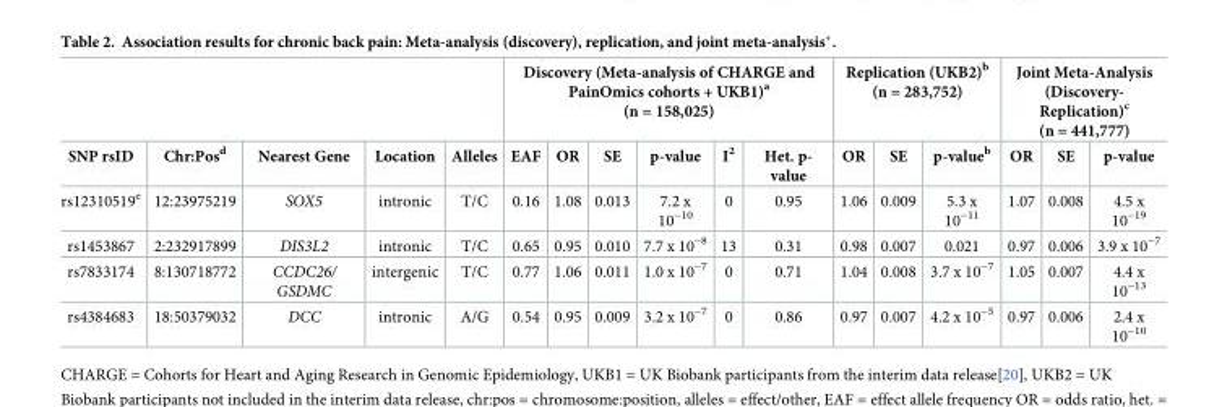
<table><thead><tr><td rowspan="2">SNP rsID</td><td rowspan="2">Chr:Pos<sup>d</sup></td><td rowspan="2">Nearest Gene</td><td rowspan="2">Location</td><td rowspan="2">Alleles</td><td colspan="6">Discovery (Meta-analysis of CHARGE and PainOmics cohorts + UKB1)<sup>a</sup> (n = 158,025)</td><td colspan="3">Replication (UKB2)<sup>b</sup> (n = 283,752)</td><td colspan="3">Joint Meta-Analysis (Discovery- Replication)<sup>c</sup> (n = 441,777)</td></tr><tr><td>EAF</td><td>OR</td><td>SE</td><td>p-value</td><td>I<sup>2</sup></td><td>Het. p- value</td><td>OR</td><td>SE</td><td>p-value<sup>b</sup></td><td>OR</td><td>SE</td><td>p-value</td></tr></thead><tbody><tr><td>rs12310519<sup>e</sup></td><td>12:23975219</td><td>SOX5</td><td>intronic</td><td>T/C</td><td>0.16</td><td>1.08</td><td>0.013</td><td>7.2 x 10<sup>−10</sup></td><td>0</td><td>0.95</td><td>1.06</td><td>0.009</td><td>5.3 x 10<sup>−11</sup></td><td>1.07</td><td>0.008</td><td>4.5 x 10<sup>−19</sup></td></tr><tr><td>rs1453867</td><td>2:232917899</td><td>DIS3L2</td><td>intronic</td><td>T/C</td><td>0.65</td><td>0.95</td><td>0.010</td><td>7.7 x 10<sup>−8</sup></td><td>13</td><td>0.31</td><td>0.98</td><td>0.007</td><td>0.021</td><td>0.97</td><td>0.006</td><td>3.9 x 10<sup>−7</sup></td></tr><tr><td>rs7833174</td><td>8:130718772</td><td>CCDC26/ GSDMC</td><td>intergenic</td><td>T/C</td><td>0.77</td><td>1.06</td><td>0.011</td><td>1.0 x 10<sup>−7</sup></td><td>0</td><td>0.71</td><td>1.04</td><td>0.008</td><td>3.7 x 10<sup>−7</sup></td><td>1.05</td><td>0.007</td><td>4.4 x 10<sup>−13</sup></td></tr><tr><td>rs4384683</td><td>18:50379032</td><td>DCC</td><td>intronic</td><td>A/G</td><td>0.54</td><td>0.95</td><td>0.009</td><td>3.2 x 10<sup>−7</sup></td><td>0</td><td>0.86</td><td>0.97</td><td>0.007</td><td>4.2 x 10<sup>−5</sup></td><td>0.97</td><td>0.006</td><td>2.4 x 10<sup>−10</sup></td></tr></tbody></table>